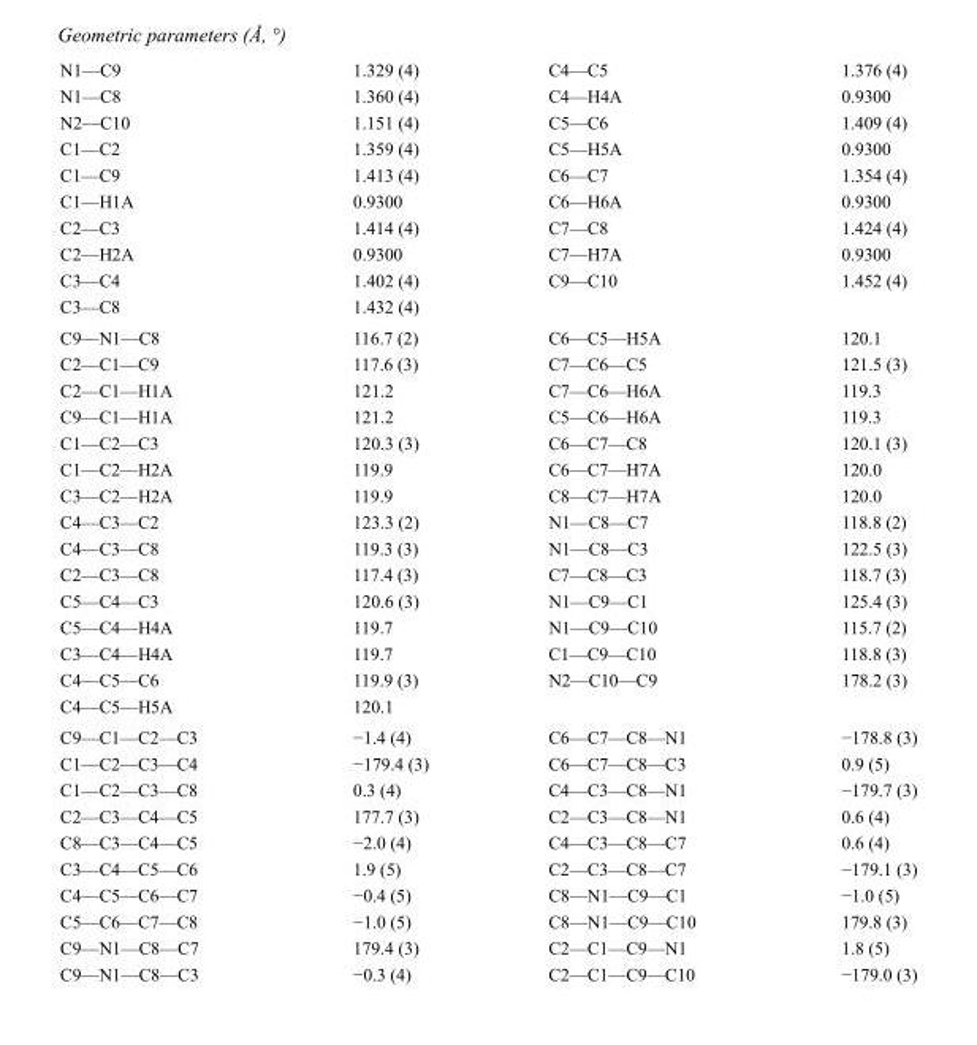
<table><tbody><tr><td>N1—C9</td><td>1.329 (4)</td><td>C4—C5</td><td>1.376 (4)</td></tr><tr><td>N1—C8</td><td>1.360 (4)</td><td>C4—H4A</td><td>0.9300</td></tr><tr><td>N2—C10</td><td>1.151 (4)</td><td>C5—C6</td><td>1.409 (4)</td></tr><tr><td>C1—C2</td><td>1.359 (4)</td><td>C5—H5A</td><td>0.9300</td></tr><tr><td>C1—C9</td><td>1.413 (4)</td><td>C6—C7</td><td>1.354 (4)</td></tr><tr><td>C1—H1A</td><td>0.9300</td><td>C6—H6A</td><td>0.9300</td></tr><tr><td>C2—C3</td><td>1.414 (4)</td><td>C7—C8</td><td>1.424 (4)</td></tr><tr><td>C2—H2A</td><td>0.9300</td><td>C7—H7A</td><td>0.9300</td></tr><tr><td>C3—C4</td><td>1.402 (4)</td><td>C9—C10</td><td>1.452 (4)</td></tr><tr><td>C3—C8</td><td>1.432 (4)</td><td></td><td></td></tr><tr><td>C9—N1—C8</td><td>116.7 (2)</td><td>C6—C5—H5A</td><td>120.1</td></tr><tr><td>C2—C1—C9</td><td>117.6 (3)</td><td>C7—C6—C5</td><td>121.5 (3)</td></tr><tr><td>C2—C1—H1A</td><td>121.2</td><td>C7—C6—H6A</td><td>119.3</td></tr><tr><td>C9—C1—H1A</td><td>121.2</td><td>C5—C6—H6A</td><td>119.3</td></tr><tr><td>C1—C2—C3</td><td>120.3 (3)</td><td>C6—C7—C8</td><td>120.1 (3)</td></tr><tr><td>C1—C2—H2A</td><td>119.9</td><td>C6—C7—H7A</td><td>120.0</td></tr><tr><td>C3—C2—H2A</td><td>119.9</td><td>C8—C7—H7A</td><td>120.0</td></tr><tr><td>C4—C3—C2</td><td>123.3 (2)</td><td>N1—C8—C7</td><td>118.8 (2)</td></tr><tr><td>C4—C3—C8</td><td>119.3 (3)</td><td>N1—C8—C3</td><td>122.5 (3)</td></tr><tr><td>C2—C3—C8</td><td>117.4 (3)</td><td>C7—C8—C3</td><td>118.7 (3)</td></tr><tr><td>C5—C4—C3</td><td>120.6 (3)</td><td>N1—C9—C1</td><td>125.4 (3)</td></tr><tr><td>C5—C4—H4A</td><td>119.7</td><td>N1—C9—C10</td><td>115.7 (2)</td></tr><tr><td>C3—C4—H4A</td><td>119.7</td><td>C1—C9—C10</td><td>118.8 (3)</td></tr><tr><td>C4—C5—C6</td><td>119.9 (3)</td><td>N2—C10—C9</td><td>178.2 (3)</td></tr><tr><td>C4—C5—H5A</td><td>120.1</td><td></td><td></td></tr><tr><td>C9—C1—C2—C3</td><td>−1.4 (4)</td><td>C6—C7—C8—N1</td><td>−178.8 (3)</td></tr><tr><td>C1—C2—C3—C4</td><td>−179.4 (3)</td><td>C6—C7—C8—C3</td><td>0.9 (5)</td></tr><tr><td>C1—C2—C3—C8</td><td>0.3 (4)</td><td>C4—C3—C8—N1</td><td>−179.7 (3)</td></tr><tr><td>C2—C3—C4—C5</td><td>177.7 (3)</td><td>C2—C3—C8—N1</td><td>0.6 (4)</td></tr><tr><td>C8—C3—C4—C5</td><td>−2.0 (4)</td><td>C4—C3—C8—C7</td><td>0.6 (4)</td></tr><tr><td>C3—C4—C5—C6</td><td>1.9 (5)</td><td>C2—C3—C8—C7</td><td>−179.1 (3)</td></tr><tr><td>C4—C5—C6—C7</td><td>−0.4 (5)</td><td>C8—N1—C9—C1</td><td>−1.0 (5)</td></tr><tr><td>C5—C6—C7—C8</td><td>−1.0 (5)</td><td>C8—N1—C9—C10</td><td>179.8 (3)</td></tr><tr><td>C9—N1—C8—C7</td><td>179.4 (3)</td><td>C2—C1—C9—N1</td><td>1.8 (5)</td></tr><tr><td>C9—N1—C8—C3</td><td>−0.3 (4)</td><td>C2—C1—C9—C10</td><td>−179.0 (3)</td></tr></tbody></table>